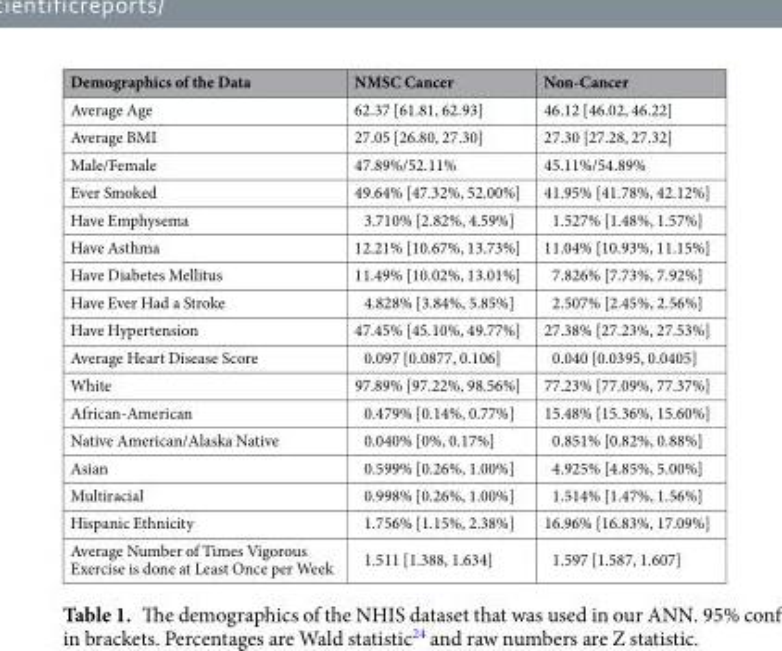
<table><thead><tr><td>Demographics of the Data</td><td>NMSC Cancer</td><td>Non-Cancer</td></tr></thead><tbody><tr><td>Average Age</td><td>62.37 [61.81, 62.93]</td><td>46.12 [46.02, 46.22]</td></tr><tr><td>Average BMI</td><td>27.05 [26.80, 27.30]</td><td>27.30 [27.28, 27.32]</td></tr><tr><td>Male/Female</td><td>47.89%/52.11%</td><td>45.11%/54.89%</td></tr><tr><td>Ever Smoked</td><td>49.64% [47.32%, 52.00%]</td><td>41.95% [41.78%, 42.12%]</td></tr><tr><td>Have Emphysema</td><td>3.710% [2.82%, 4.59%]</td><td>1.527% [1.48%, 1.57%]</td></tr><tr><td>Have Asthma</td><td>12.21% [10.67%, 13.73%]</td><td>11.04% [10.93%, 11.15%]</td></tr><tr><td>Have Diabetes Mellitus</td><td>11.49% [10.02%, 13.01%]</td><td>7.826% [7.73%, 7.92%]</td></tr><tr><td>Have Ever Had a Stroke</td><td>4.828% [3.84%, 5.85%]</td><td>2.507% [2.45%, 2.56%]</td></tr><tr><td>Have Hypertension</td><td>47.45% [45.10%, 49.77%]</td><td>27.38% [27.23%, 27.53%]</td></tr><tr><td>Average Heart Disease Score</td><td>0.097 [0.0877, 0.106]</td><td>0.040 [0.0395, 0.0405]</td></tr><tr><td>White</td><td>97.89% [97.22%, 98.56%]</td><td>77.23% [77.09%, 77.37%]</td></tr><tr><td>African-American</td><td>0.479% [0.14%, 0.77%]</td><td>15.48% [15.36%, 15.60%]</td></tr><tr><td>Native American/Alaska Native</td><td>0.040% [0%, 0.17%]</td><td>0.851% [0.82%, 0.88%]</td></tr><tr><td>Asian</td><td>0.599% [0.26%, 1.00%]</td><td>4.925% [4.85%, 5.00%]</td></tr><tr><td>Multiracial</td><td>0.998% [0.26%, 1.00%]</td><td>1.514% [1.47%, 1.56%]</td></tr><tr><td>Hispanic Ethnicity</td><td>1.756% [1.15%, 2.38%]</td><td>16.96% [16.83%, 17.09%]</td></tr><tr><td>Average Number of Times Vigorous Exercise is done at Least Once per Week</td><td>1.511 [1.388, 1.634]</td><td>1.597 [1.587, 1.607]</td></tr></tbody></table>